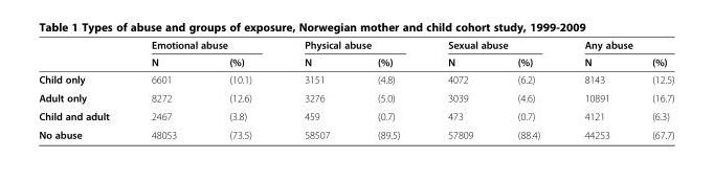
<table><thead><tr><td rowspan="2"></td><td colspan="2">Emotional abuse</td><td colspan="2">Physical abuse</td><td colspan="2">Sexual abuse</td><td colspan="2">Any abuse</td></tr><tr><td>N</td><td>(%)</td><td>N</td><td>(%)</td><td>N</td><td>(%)</td><td>N</td><td>(%)</td></tr></thead><tbody><tr><td>Child only</td><td>6601</td><td>(10.1)</td><td>3151</td><td>(4.8)</td><td>4072</td><td>(6.2)</td><td>8143</td><td>(12.5)</td></tr><tr><td>Adult only</td><td>8272</td><td>(12.6)</td><td>3276</td><td>(5.0)</td><td>3039</td><td>(4.6)</td><td>10891</td><td>(16.7)</td></tr><tr><td>Child and adult</td><td>2467</td><td>(3.8)</td><td>459</td><td>(0.7)</td><td>473</td><td>(0.7)</td><td>4121</td><td>(6.3)</td></tr><tr><td>No abuse</td><td>48053</td><td>(73.5)</td><td>58507</td><td>(89.5)</td><td>57809</td><td>(88.4)</td><td>44253</td><td>(67.7)</td></tr></tbody></table>